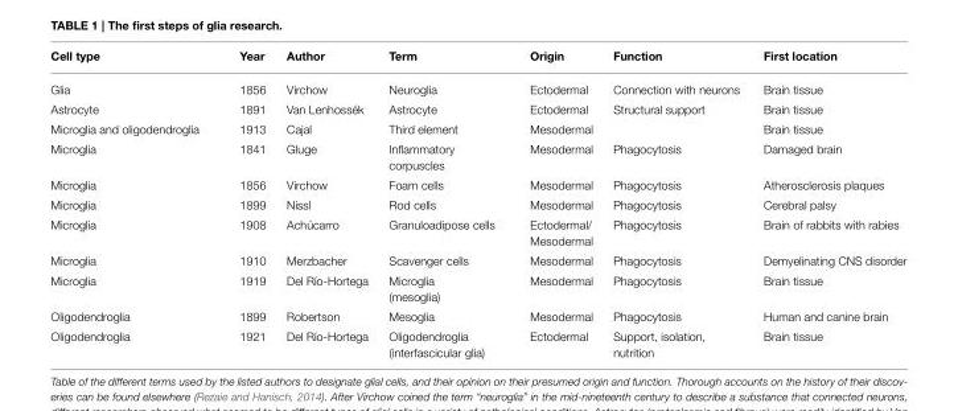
<table><thead><tr><td>Cell type</td><td>Year</td><td>Author</td><td>Term</td><td>Origin</td><td>Function</td><td>First location</td></tr></thead><tbody><tr><td>Glia</td><td>1856</td><td>Virchow</td><td>Neuroglia</td><td>Ectodermal</td><td>Connection with neurons</td><td>Brain tissue</td></tr><tr><td>Astrocyte</td><td>1891</td><td>Van Lenhossék</td><td>Astrocyte</td><td>Ectodermal</td><td>Structural support</td><td>Brain tissue</td></tr><tr><td>Microglia and oligodendroglia</td><td>1913</td><td>Cajal</td><td>Third element</td><td>Mesodermal</td><td></td><td>Brain tissue</td></tr><tr><td>Microglia</td><td>1841</td><td>Gluge</td><td>Inflammatory corpuscles</td><td>Mesodermal</td><td>Phagocytosis</td><td>Damaged brain</td></tr><tr><td>Microglia</td><td>1856</td><td>Virchow</td><td>Foam cells</td><td>Mesodermal</td><td>Phagocytosis</td><td>Atherosclerosis plaques</td></tr><tr><td>Microglia</td><td>1899</td><td>Nissl</td><td>Rod cells</td><td>Mesodermal</td><td>Phagocytosis</td><td>Cerebral palsy</td></tr><tr><td>Microglia</td><td>1908</td><td>Achúcarro</td><td>Granuloadipose cells</td><td>Ectodermal/ Mesodermal</td><td>Phagocytosis</td><td>Brain of rabbits with rabies</td></tr><tr><td>Microglia</td><td>1910</td><td>Merzbacher</td><td>Scavenger cells</td><td>Mesodermal</td><td>Phagocytosis</td><td>Demyelinating CNS disorder</td></tr><tr><td>Microglia</td><td>1919</td><td>Del Río-Hortega</td><td>Microglia (mesoglia)</td><td>Mesodermal</td><td>Phagocytosis</td><td>Brain tissue</td></tr><tr><td>Oligodendroglia</td><td>1899</td><td>Robertson</td><td>Mesoglia</td><td>Mesodermal</td><td>Phagocytosis</td><td>Human and canine brain</td></tr><tr><td>Oligodendroglia</td><td>1921</td><td>Del Río-Hortega</td><td>Oligodendroglia (interfascicular glia)</td><td>Ectodermal</td><td>Support, isolation, nutrition</td><td>Brain tissue</td></tr></tbody></table>